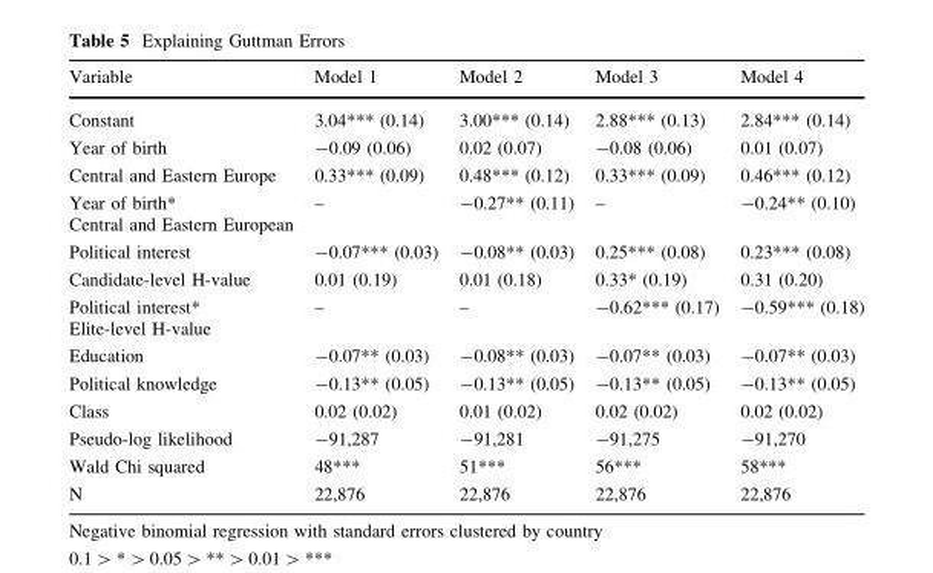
<table><thead><tr><td>Variable</td><td>Model 1</td><td>Model 2</td><td>Model 3</td><td>Model 4</td></tr></thead><tbody><tr><td>Constant</td><td>3.04*** (0.14)</td><td>3.00*** (0.14)</td><td>2.88*** (0.13)</td><td>2.84*** (0.14)</td></tr><tr><td>Year of birth</td><td>-0.09 (0.06)</td><td>0.02 (0.07)</td><td>-0.08 (0.06)</td><td>0.01 (0.07)</td></tr><tr><td>Central and Eastern Europe</td><td>0.33*** (0.09)</td><td>0.48*** (0.12)</td><td>0.33*** (0.09)</td><td>0.46*** (0.12)</td></tr><tr><td>Year of birth* Central and Eastern European</td><td>–</td><td>-0.27** (0.11)</td><td>–</td><td>-0.24** (0.10)</td></tr><tr><td>Political interest</td><td>-0.07*** (0.03)</td><td>-0.08** (0.03)</td><td>0.25*** (0.08)</td><td>0.23*** (0.08)</td></tr><tr><td>Candidate-level H-value</td><td>0.01 (0.19)</td><td>0.01 (0.18)</td><td>0.33* (0.19)</td><td>0.31 (0.20)</td></tr><tr><td>Political interest* Elite-level H-value</td><td>–</td><td>–</td><td>-0.62*** (0.17)</td><td>-0.59*** (0.18)</td></tr><tr><td>Education</td><td>-0.07** (0.03)</td><td>-0.08** (0.03)</td><td>-0.07** (0.03)</td><td>-0.07** (0.03)</td></tr><tr><td>Political knowledge</td><td>-0.13** (0.05)</td><td>-0.13** (0.05)</td><td>-0.13** (0.05)</td><td>-0.13** (0.05)</td></tr><tr><td>Class</td><td>0.02 (0.02)</td><td>0.01 (0.02)</td><td>0.02 (0.02)</td><td>0.02 (0.02)</td></tr><tr><td>Pseudo-log likelihood</td><td>-91,287</td><td>-91,281</td><td>-91,275</td><td>-91,270</td></tr><tr><td>Wald Chi squared</td><td>48***</td><td>51***</td><td>56***</td><td>58***</td></tr><tr><td>N</td><td>22,876</td><td>22,876</td><td>22,876</td><td>22,876</td></tr></tbody></table>